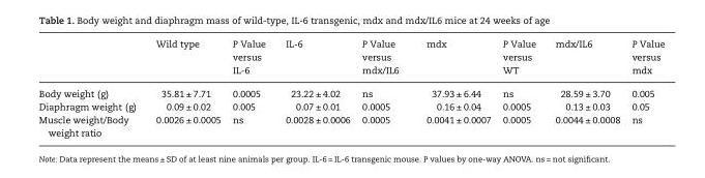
<table><thead><tr><td rowspan="2"></td><td rowspan="2">Wild type</td><td rowspan="2">P Value versus IL-6</td><td rowspan="2">IL-6</td><td rowspan="2">P Value versus mdx/IL6</td><td rowspan="2">mdx</td><td rowspan="2">P Value versus WT</td><td rowspan="2">mdx/IL6</td><td rowspan="2">P Value versus mdx</td></tr><tr></tr></thead><tbody><tr><td>Body weight (g)</td><td>35.81 ± 7.71</td><td>0.0005</td><td>23.22 ± 4.02</td><td>ns</td><td>37.93 ± 6.44</td><td>ns</td><td>28.59 ± 3.70</td><td>0.005</td></tr><tr><td>Diaphragm weight (g)</td><td>0.09 ± 0.02</td><td>0.005</td><td>0.07 ± 0.01</td><td>0.0005</td><td>0.16 ± 0.04</td><td>0.0005</td><td>0.13 ± 0.03</td><td>0.05</td></tr><tr><td>Muscle weight/Body weight ratio</td><td>0.0026 ± 0.0005</td><td>ns</td><td>0.0028 ± 0.0006</td><td>0.0005</td><td>0.0041 ± 0.0007</td><td>0.0005</td><td>0.0044 ± 0.0008</td><td>ns</td></tr></tbody></table>